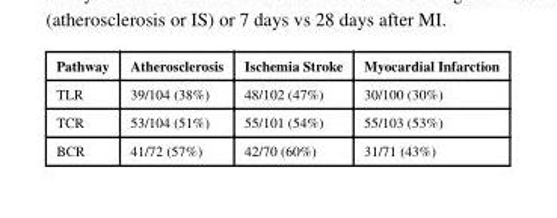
<table><thead><tr><td>Pathway</td><td>Atherosclerosis</td><td>Ischemia Stroke</td><td>Myocardial Infarction</td></tr></thead><tbody><tr><td>TLR</td><td>39/104 (38%)</td><td>48/102 (47%)</td><td>30/100 (30%)</td></tr><tr><td>TCR</td><td>53/104 (51%)</td><td>55/101 (54%)</td><td>55/103 (53%)</td></tr><tr><td>BCR</td><td>41/72 (57%)</td><td>42/70 (60%)</td><td>31/71 (43%)</td></tr></tbody></table>